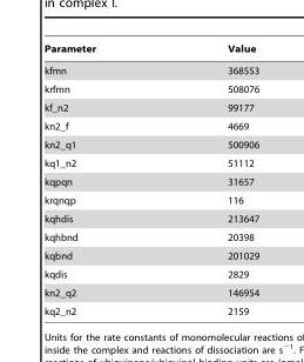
<table><thead><tr><td>Parameter</td><td>Value</td></tr></thead><tbody><tr><td>kfmn</td><td>368553</td></tr><tr><td>krfmn</td><td>508076</td></tr><tr><td>kf_n2</td><td>99177</td></tr><tr><td>kn2_f</td><td>4669</td></tr><tr><td>kn2_q1</td><td>500906</td></tr><tr><td>kq1_n2</td><td>51112</td></tr><tr><td>kqpqn</td><td>31657</td></tr><tr><td>krqnqp</td><td>116</td></tr><tr><td>kqhdis</td><td>213647</td></tr><tr><td>kqhbnd</td><td>20398</td></tr><tr><td>kqbnd</td><td>201029</td></tr><tr><td>kqdis</td><td>2829</td></tr><tr><td>kn2_q2</td><td>146954</td></tr><tr><td>kq2_n2</td><td>2159</td></tr></tbody></table>